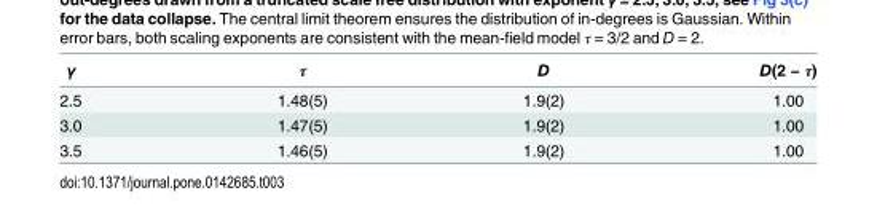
<table><thead><tr><td>γ</td><td>τ</td><td>D</td><td>D(2 − τ)</td></tr></thead><tbody><tr><td>2.5</td><td>1.48(5)</td><td>1.9(2)</td><td>1.00</td></tr><tr><td>3.0</td><td>1.47(5)</td><td>1.9(2)</td><td>1.00</td></tr><tr><td>3.5</td><td>1.46(5)</td><td>1.9(2)</td><td>1.00</td></tr></tbody></table>